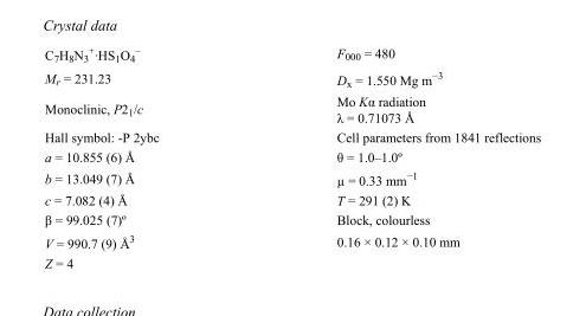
<table><tbody><tr><td>C7H8N3 +·HS1O4 –</td><td>F000 = 480</td></tr><tr><td>M<sub>r</sub> = 231.23</td><td>D<sub>x</sub> = 1.550 Mg m<sup>−3</sup></td></tr><tr><td>Monoclinic, P2<sub>1</sub>/c</td><td>Mo Kα radiation λ = 0.71073 Å</td></tr><tr><td>Hall symbol: -P 2ybc</td><td>Cell parameters from 1841 reflections</td></tr><tr><td>a = 10.855 (6) Å</td><td>θ = 1.0–1.0º</td></tr><tr><td>b = 13.049 (7) Å</td><td>µ = 0.33 mm<sup>−1</sup></td></tr><tr><td>c = 7.082 (4) Å</td><td>T = 291 (2) K</td></tr><tr><td>β = 99.025 (7)º</td><td>Block, colourless</td></tr><tr><td>V = 990.7 (9) Å<sup>3</sup></td><td>0.16 × 0.12 × 0.10 mm</td></tr><tr><td>Z = 4</td><td></td></tr></tbody></table>